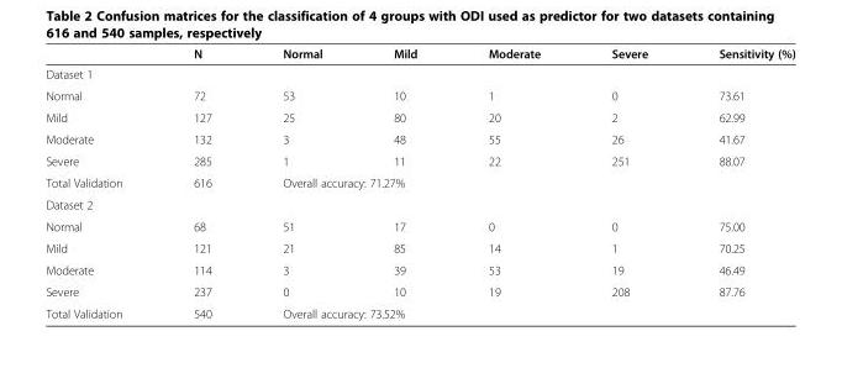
<table><thead><tr><td></td><td>N</td><td>Normal</td><td>Mild</td><td>Moderate</td><td>Severe</td><td>Sensitivity (%)</td></tr></thead><tbody><tr><td colspan="7">Dataset 1</td></tr><tr><td>Normal</td><td>72</td><td>53</td><td>10</td><td>1</td><td>0</td><td>73.61</td></tr><tr><td>Mild</td><td>127</td><td>25</td><td>80</td><td>20</td><td>2</td><td>62.99</td></tr><tr><td>Moderate</td><td>132</td><td>3</td><td>48</td><td>55</td><td>26</td><td>41.67</td></tr><tr><td>Severe</td><td>285</td><td>1</td><td>11</td><td>22</td><td>251</td><td>88.07</td></tr><tr><td>Total Validation</td><td>616</td><td colspan="5">Overall accuracy: 71.27%</td></tr><tr><td colspan="7">Dataset 2</td></tr><tr><td>Normal</td><td>68</td><td>51</td><td>17</td><td>0</td><td>0</td><td>75.00</td></tr><tr><td>Mild</td><td>121</td><td>21</td><td>85</td><td>14</td><td>1</td><td>70.25</td></tr><tr><td>Moderate</td><td>114</td><td>3</td><td>39</td><td>53</td><td>19</td><td>46.49</td></tr><tr><td>Severe</td><td>237</td><td>0</td><td>10</td><td>19</td><td>208</td><td>87.76</td></tr><tr><td>Total Validation</td><td>540</td><td colspan="5">Overall accuracy: 73.52%</td></tr></tbody></table>